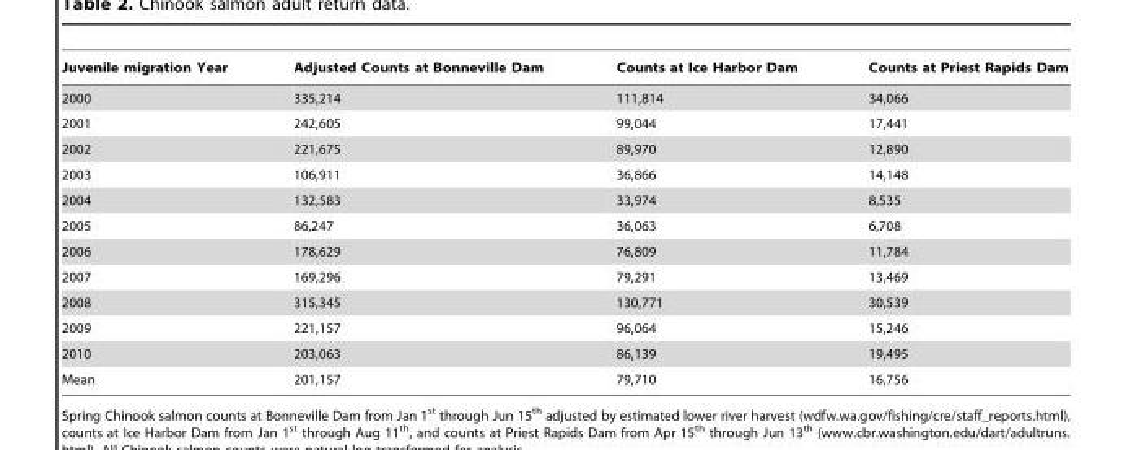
<table><thead><tr><td>Juvenile migration Year</td><td>Adjusted Counts at Bonneville Dam</td><td>Counts at Ice Harbor Dam</td><td>Counts at Priest Rapids Dam</td></tr></thead><tbody><tr><td>2000</td><td>335,214</td><td>111,814</td><td>34,066</td></tr><tr><td>2001</td><td>242,605</td><td>99,044</td><td>17,441</td></tr><tr><td>2002</td><td>221,675</td><td>89,970</td><td>12,890</td></tr><tr><td>2003</td><td>106,911</td><td>36,866</td><td>14,148</td></tr><tr><td>2004</td><td>132,583</td><td>33,974</td><td>8,535</td></tr><tr><td>2005</td><td>86,247</td><td>36,063</td><td>6,708</td></tr><tr><td>2006</td><td>178,629</td><td>76,809</td><td>11,784</td></tr><tr><td>2007</td><td>169,296</td><td>79,291</td><td>13,469</td></tr><tr><td>2008</td><td>315,345</td><td>130,771</td><td>30,539</td></tr><tr><td>2009</td><td>221,157</td><td>96,064</td><td>15,246</td></tr><tr><td>2010</td><td>203,063</td><td>86,139</td><td>19,495</td></tr><tr><td>Mean</td><td>201,157</td><td>79,710</td><td>16,756</td></tr></tbody></table>